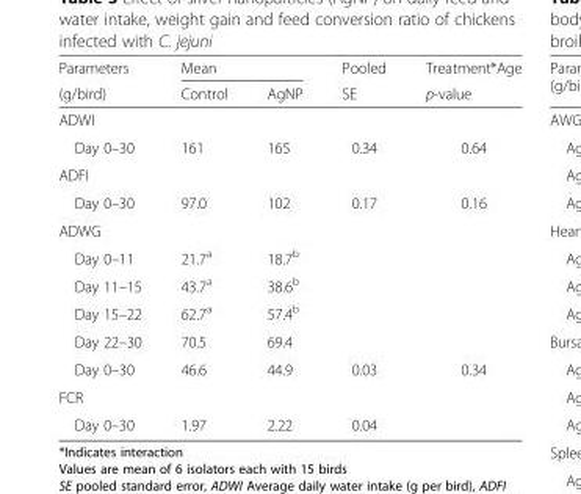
<table><thead><tr><td rowspan="2">Parameters (g/bird)</td><td colspan="2">Mean</td><td rowspan="2">Pooled SE</td><td rowspan="2">Treatment*Age p-value</td></tr><tr><td>Control</td><td>AgNP</td></tr></thead><tbody><tr><td colspan="5">ADWI</td></tr><tr><td>Day 0–30</td><td>161</td><td>165</td><td>0.34</td><td>0.64</td></tr><tr><td colspan="5">ADFI</td></tr><tr><td>Day 0–30</td><td>97.0</td><td>102</td><td>0.17</td><td>0.16</td></tr><tr><td colspan="5">ADWG</td></tr><tr><td>Day 0–11</td><td>21.7<sup>a</sup></td><td>18.7<sup>b</sup></td><td></td><td></td></tr><tr><td>Day 11–15</td><td>43.7<sup>a</sup></td><td>38.6<sup>b</sup></td><td></td><td></td></tr><tr><td>Day 15–22</td><td>62.7<sup>a</sup></td><td>57.4<sup>b</sup></td><td></td><td></td></tr><tr><td>Day 22–30</td><td>70.5</td><td>69.4</td><td></td><td></td></tr><tr><td>Day 0–30</td><td>46.6</td><td>44.9</td><td>0.03</td><td>0.34</td></tr><tr><td colspan="5">FCR</td></tr><tr><td>Day 0–30</td><td>1.97</td><td>2.22</td><td>0.04</td><td></td></tr></tbody></table>